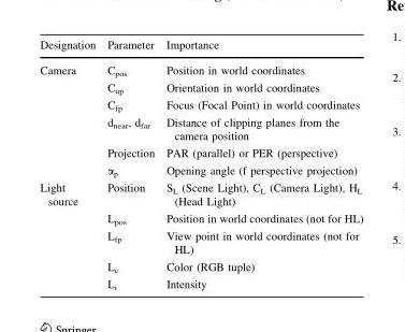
<table><thead><tr><td>Designation</td><td>Parameter</td><td>Importance</td></tr></thead><tbody><tr><td rowspan="6">Camera</td><td>C<sub>pos</sub></td><td>Position in world coordinates</td></tr><tr><td>C<sub>up</sub></td><td>Orientation in world coordinates</td></tr><tr><td>C<sub>fp</sub></td><td>Focus (Focal Point) in world coordinates</td></tr><tr><td>d<sub>near</sub>, d<sub>far</sub></td><td>Distance of clipping planes from the camera position</td></tr><tr><td>Projection</td><td>PAR (parallel) or PER (perspective)</td></tr><tr><td>α<sub>p</sub></td><td>Opening angle (f perspective projection)</td></tr><tr><td rowspan="5">Light source</td><td>Position</td><td>S<sub>L</sub> (Scene Light), C<sub>L</sub> (Camera Light), H<sub>L</sub> (Head Light)</td></tr><tr><td>L<sub>pos</sub></td><td>Position in world coordinates (not for HL)</td></tr><tr><td>L<sub>fp</sub></td><td>View point in world coordinates (not for HL)</td></tr><tr><td>L<sub>c</sub></td><td>Color (RGB tuple)</td></tr><tr><td>L<sub>i</sub></td><td>Intensity</td></tr></tbody></table>